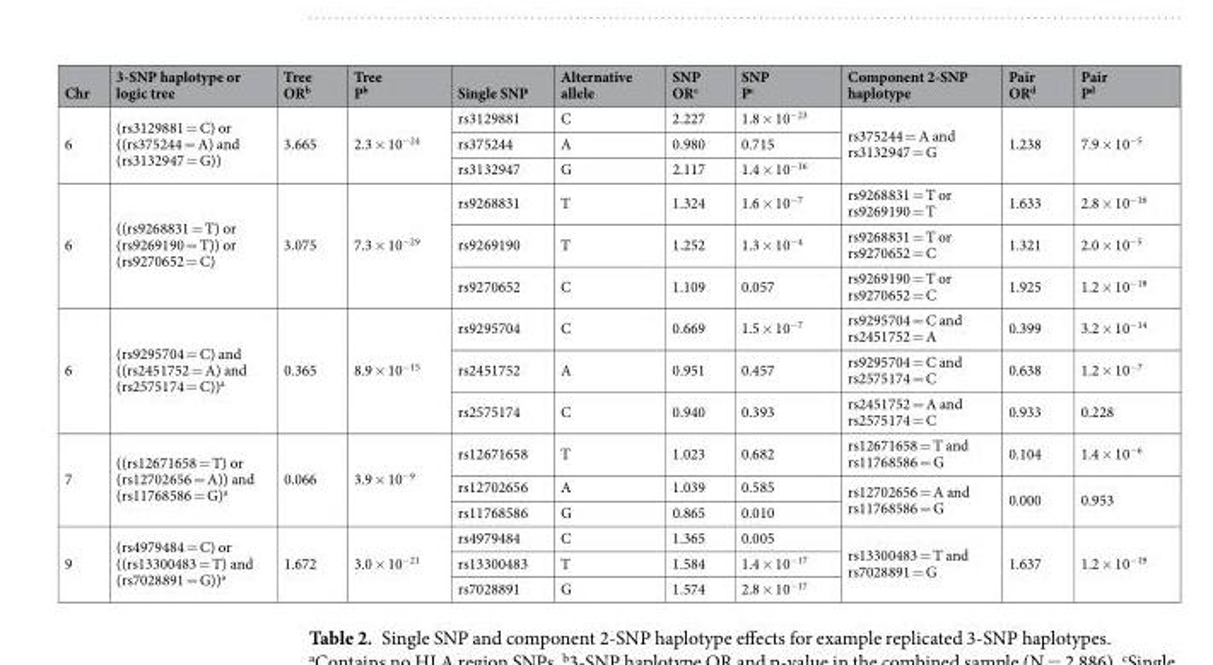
<table><thead><tr><td>Chr</td><td>3-SNP haplotype or logic tree</td><td>Tree OR<sup>b</sup></td><td>Tree P<sup>b</sup></td><td>Single SNP</td><td>Alternative allele</td><td>SNP OR<sup>c</sup></td><td>SNP P<sup>c</sup></td><td>Component 2-SNP haplotype</td><td>Pair OR<sup>d</sup></td><td>Pair P<sup>d</sup></td></tr></thead><tbody><tr><td rowspan="3">6</td><td rowspan="3">(rs3129881 = C) or ((rs375244 = A) and (rs3132947 = G))</td><td rowspan="3">3.665</td><td rowspan="3">2.3 × 10<sup>−24</sup></td><td>rs3129881</td><td>C</td><td>2.227</td><td>1.8 × 10<sup>−23</sup></td><td rowspan="3">rs375244 = A and rs3132947 = G</td><td rowspan="3">1.238</td><td rowspan="3">7.9 × 10<sup>−5</sup></td></tr><tr><td>rs375244</td><td>A</td><td>0.980</td><td>0.715</td></tr><tr><td>rs3132947</td><td>G</td><td>2.117</td><td>1.4 × 10<sup>−16</sup></td></tr><tr><td rowspan="3">6</td><td rowspan="3">((rs9268831 = T) or (rs9269190 = T)) or (rs9270652 = C)</td><td rowspan="3">3.075</td><td rowspan="3">7.3 × 10<sup>−29</sup></td><td>rs9268831</td><td>T</td><td>1.324</td><td>1.6 × 10<sup>−7</sup></td><td>rs9268831 = T or rs9269190 = T</td><td>1.633</td><td>2.8 × 10<sup>−16</sup></td></tr><tr><td>rs9269190</td><td>T</td><td>1.252</td><td>1.3 × 10<sup>−4</sup></td><td>rs9268831 = T or rs9270652 = C</td><td>1.321</td><td>2.0 × 10<sup>−5</sup></td></tr><tr><td>rs9270652</td><td>C</td><td>1.109</td><td>0.057</td><td>rs9269190 = T or rs9270652 = C</td><td>1.925</td><td>1.2 × 10<sup>−18</sup></td></tr><tr><td rowspan="3">6</td><td rowspan="3">(rs9295704 = C) and ((rs2451752 = A) and (rs2575174 = C))<sup>a</sup></td><td rowspan="3">0.365</td><td rowspan="3">8.9 × 10<sup>−15</sup></td><td>rs9295704</td><td>C</td><td>0.669</td><td>1.5 × 10<sup>−7</sup></td><td>rs9295704 = C and rs2451752 = A</td><td>0.399</td><td>3.2 × 10<sup>−14</sup></td></tr><tr><td>rs2451752</td><td>A</td><td>0.951</td><td>0.457</td><td>rs9295704 = C and rs2575174 = C</td><td>0.638</td><td>1.2 × 10<sup>−7</sup></td></tr><tr><td>rs2575174</td><td>C</td><td>0.940</td><td>0.393</td><td>rs2451752 = A and rs2575174 = C</td><td>0.933</td><td>0.228</td></tr><tr><td rowspan="3">7</td><td rowspan="3">((rs12671658 = T) or (rs12702656 = A)) and (rs11768586 = G)<sup>a</sup></td><td rowspan="3">0.066</td><td rowspan="3">3.9 × 10<sup>−9</sup></td><td>rs12671658</td><td>T</td><td>1.023</td><td>0.682</td><td>rs12671658 = T and rs11768586 = G</td><td>0.104</td><td>1.4 × 10<sup>−6</sup></td></tr><tr><td>rs12702656</td><td>A</td><td>1.039</td><td>0.585</td><td rowspan="2">rs12702656 = A and rs11768586 = G</td><td rowspan="2">0.000</td><td rowspan="2">0.953</td></tr><tr><td>rs11768586</td><td>G</td><td>0.865</td><td>0.010</td></tr><tr><td rowspan="3">9</td><td rowspan="3">(rs4979484 = C) or ((rs13300483 = T) and (rs7028891 = G))<sup>a</sup></td><td rowspan="3">1.672</td><td rowspan="3">3.0 × 10<sup>−21</sup></td><td>rs4979484</td><td>C</td><td>1.365</td><td>0.005</td><td rowspan="3">rs13300483 = T and rs7028891 = G</td><td rowspan="3">1.637</td><td rowspan="3">1.2 × 10<sup>−19</sup></td></tr><tr><td>rs13300483</td><td>T</td><td>1.584</td><td>1.4 × 10<sup>−17</sup></td></tr><tr><td>rs7028891</td><td>G</td><td>1.574</td><td>2.8 × 10<sup>−17</sup></td></tr></tbody></table>